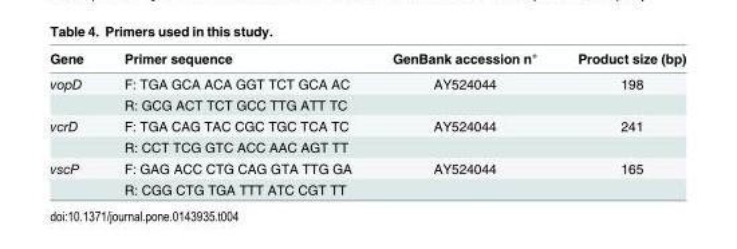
<table><thead><tr><td>Gene</td><td>Primer sequence</td><td>GenBank accession n°</td><td>Product size (bp)</td></tr></thead><tbody><tr><td rowspan="2">vopD</td><td>F: TGA GCA ACA GGT TCT GCA AC</td><td>AY524044</td><td>198</td></tr><tr><td>R: GCG ACT TCT GCC TTG ATT TC</td><td></td><td></td></tr><tr><td rowspan="2">vcrD</td><td>F: TGA CAG TAC CGC TGC TCA TC</td><td>AY524044</td><td>241</td></tr><tr><td>R: CCT TCG GTC ACC AAC AGT TT</td><td></td><td></td></tr><tr><td rowspan="2">vscP</td><td>F: GAG ACC CTG CAG GTA TTG GA</td><td>AY524044</td><td>165</td></tr><tr><td>R: CGG CTG TGA TTT ATC CGT TT</td><td></td><td></td></tr></tbody></table>